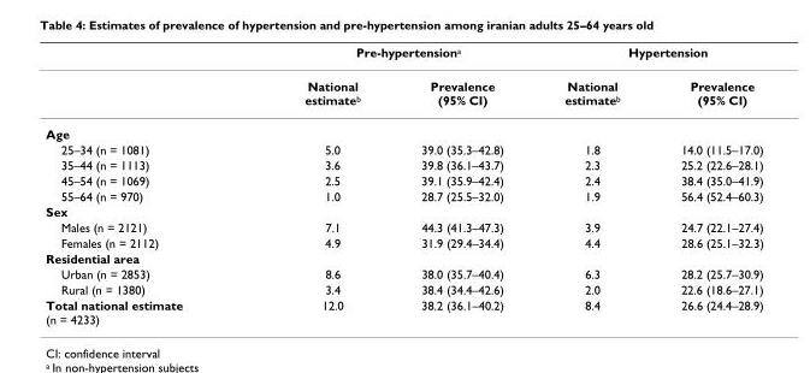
<table><thead><tr><td rowspan="2"></td><td colspan="2">Pre-hypertension<sup>a</sup></td><td colspan="2">Hypertension</td></tr><tr><td>National estimate<sup>b</sup></td><td>Prevalence (95% CI)</td><td>National estimate<sup>b</sup></td><td>Prevalence (95% CI)</td></tr></thead><tbody><tr><td colspan="5">Age</td></tr><tr><td>25–34 (n = 1081)</td><td>5.0</td><td>39.0 (35.3–42.8)</td><td>1.8</td><td>14.0 (11.5–17.0)</td></tr><tr><td>35–44 (n = 1113)</td><td>3.6</td><td>39.8 (36.1–43.7)</td><td>2.3</td><td>25.2 (22.6–28.1)</td></tr><tr><td>45–54 (n = 1069)</td><td>2.5</td><td>39.1 (35.9–42.4)</td><td>2.4</td><td>38.4 (35.0–41.9)</td></tr><tr><td>55–64 (n = 970)</td><td>1.0</td><td>28.7 (25.5–32.0)</td><td>1.9</td><td>56.4 (52.4–60.3)</td></tr><tr><td colspan="5">Sex</td></tr><tr><td>Males (n = 2121)</td><td>7.1</td><td>44.3 (41.3–47.3)</td><td>3.9</td><td>24.7 (22.1–27.4)</td></tr><tr><td>Females (n = 2112)</td><td>4.9</td><td>31.9 (29.4–34.4)</td><td>4.4</td><td>28.6 (25.1–32.3)</td></tr><tr><td colspan="5">Residential area</td></tr><tr><td>Urban (n = 2853)</td><td>8.6</td><td>38.0 (35.7–40.4)</td><td>6.3</td><td>28.2 (25.7–30.9)</td></tr><tr><td>Rural (n = 1380)</td><td>3.4</td><td>38.4 (34.4–42.6)</td><td>2.0</td><td>22.6 (18.6–27.1)</td></tr><tr><td>Total national estimate (n = 4233)</td><td>12.0</td><td>38.2 (36.1–40.2)</td><td>8.4</td><td>26.6 (24.4–28.9)</td></tr></tbody></table>